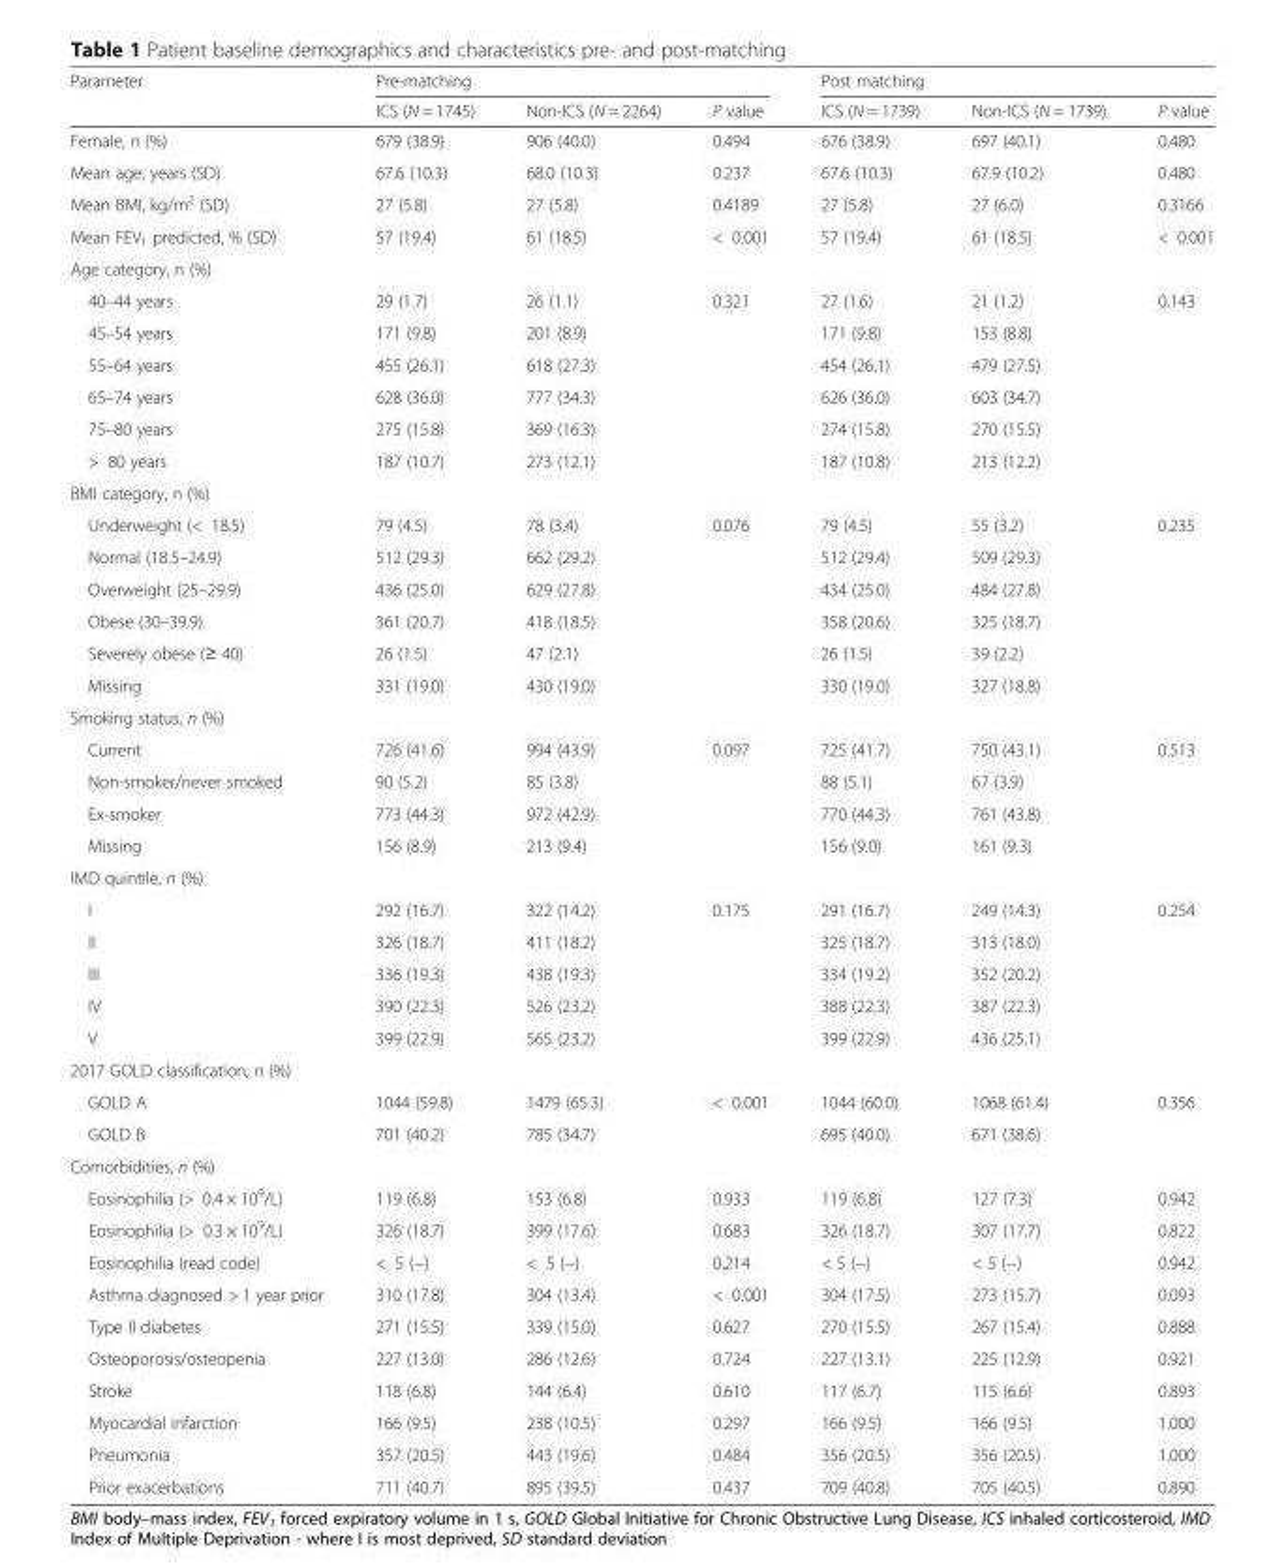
<table><thead><tr><td rowspan="2">Parameter</td><td colspan="3">Pre-matching</td><td colspan="3">Post matching</td></tr><tr><td>ICS (N = 1745)</td><td>Non-ICS (N = 2264)</td><td>P value</td><td>ICS (N = 1739)</td><td>Non-ICS (N = 1739)</td><td>P value</td></tr></thead><tbody><tr><td>Female, n (%)</td><td>679 (38.9)</td><td>906 (40.0)</td><td>0.494</td><td>676 (38.9)</td><td>697 (40.1)</td><td>0.480</td></tr><tr><td>Mean age, years (SD)</td><td>67.6 (10.3)</td><td>68.0 (10.3)</td><td>0.237</td><td>67.6 (10.3)</td><td>67.9 (10.2)</td><td>0.480</td></tr><tr><td>Mean BMI, kg/m<sup>2</sup> (SD)</td><td>27 (5.8)</td><td>27 (5.8)</td><td>0.4189</td><td>27 (5.8)</td><td>27 (6.0)</td><td>0.3166</td></tr><tr><td>Mean FEV<sub>1</sub> predicted, % (SD)</td><td>57 (19.4)</td><td>61 (18.5)</td><td>&lt; 0.001</td><td>57 (19.4)</td><td>61 (18.5)</td><td>&lt; 0.001</td></tr><tr><td colspan="7">Age category, n (%)</td></tr><tr><td>40–44 years</td><td>29 (1.7)</td><td>26 (1.1)</td><td rowspan="6">0.321</td><td>27 (1.6)</td><td>21 (1.2)</td><td rowspan="6">0.143</td></tr><tr><td>45–54 years</td><td>171 (9.8)</td><td>201 (8.9)</td><td>171 (9.8)</td><td>153 (8.8)</td></tr><tr><td>55–64 years</td><td>455 (26.1)</td><td>618 (27.3)</td><td>454 (26.1)</td><td>479 (27.5)</td></tr><tr><td>65–74 years</td><td>628 (36.0)</td><td>777 (34.3)</td><td>626 (36.0)</td><td>603 (34.7)</td></tr><tr><td>75–80 years</td><td>275 (15.8)</td><td>369 (16.3)</td><td>274 (15.8)</td><td>270 (15.5)</td></tr><tr><td>&gt; 80 years</td><td>187 (10.7)</td><td>273 (12.1)</td><td>187 (10.8)</td><td>213 (12.2)</td></tr><tr><td colspan="7">BMI category, n (%)</td></tr><tr><td>Underweight (&lt; 18.5)</td><td>79 (4.5)</td><td>78 (3.4)</td><td rowspan="6">0.076</td><td>79 (4.5)</td><td>55 (3.2)</td><td rowspan="6">0.235</td></tr><tr><td>Normal (18.5–24.9)</td><td>512 (29.3)</td><td>662 (29.2)</td><td>512 (29.4)</td><td>509 (29.3)</td></tr><tr><td>Overweight (25–29.9)</td><td>436 (25.0)</td><td>629 (27.8)</td><td>434 (25.0)</td><td>484 (27.8)</td></tr><tr><td>Obese (30–39.9)</td><td>361 (20.7)</td><td>418 (18.5)</td><td>358 (20.6)</td><td>325 (18.7)</td></tr><tr><td>Severely obese (≥ 40)</td><td>26 (1.5)</td><td>47 (2.1)</td><td>26 (1.5)</td><td>39 (2.2)</td></tr><tr><td>Missing</td><td>331 (19.0)</td><td>430 (19.0)</td><td>330 (19.0)</td><td>327 (18.8)</td></tr><tr><td colspan="7">Smoking status, n (%)</td></tr><tr><td>Current</td><td>726 (41.6)</td><td>994 (43.9)</td><td rowspan="4">0.097</td><td>725 (41.7)</td><td>750 (43.1)</td><td rowspan="4">0.513</td></tr><tr><td>Non-smoker/never smoked</td><td>90 (5.2)</td><td>85 (3.8)</td><td>88 (5.1)</td><td>67 (3.9)</td></tr><tr><td>Ex-smoker</td><td>773 (44.3)</td><td>972 (42.9)</td><td>770 (44.3)</td><td>761 (43.8)</td></tr><tr><td>Missing</td><td>156 (8.9)</td><td>213 (9.4)</td><td>156 (9.0)</td><td>161 (9.3)</td></tr><tr><td colspan="7">IMD quintile, n (%)</td></tr><tr><td>I</td><td>292 (16.7)</td><td>322 (14.2)</td><td rowspan="5">0.175</td><td>291 (16.7)</td><td>249 (14.3)</td><td rowspan="5">0.254</td></tr><tr><td>II</td><td>326 (18.7)</td><td>411 (18.2)</td><td>325 (18.7)</td><td>313 (18.0)</td></tr><tr><td>III</td><td>336 (19.3)</td><td>438 (19.3)</td><td>334 (19.2)</td><td>352 (20.2)</td></tr><tr><td>IV</td><td>390 (22.3)</td><td>526 (23.2)</td><td>388 (22.3)</td><td>387 (22.3)</td></tr><tr><td>V</td><td>399 (22.9)</td><td>565 (23.2)</td><td>399 (22.9)</td><td>436 (25.1)</td></tr><tr><td colspan="7">2017 GOLD classification, n (%)</td></tr><tr><td>GOLD A</td><td>1044 (59.8)</td><td>1479 (65.3)</td><td rowspan="2">&lt; 0.001</td><td>1044 (60.0)</td><td>1068 (61.4)</td><td rowspan="2">0.356</td></tr><tr><td>GOLD B</td><td>701 (40.2)</td><td>785 (34.7)</td><td>695 (40.0)</td><td>671 (38.6)</td></tr><tr><td colspan="7">Comorbidities, n (%)</td></tr><tr><td>Eosinophilia (&gt; 0.4 × 10<sup>9</sup>/L)</td><td>119 (6.8)</td><td>153 (6.8)</td><td>0.933</td><td>119 (6.8)</td><td>127 (7.3)</td><td>0.942</td></tr><tr><td>Eosinophilia (&gt; 0.3 × 10<sup>9</sup>/L)</td><td>326 (18.7)</td><td>399 (17.6)</td><td>0.683</td><td>326 (18.7)</td><td>307 (17.7)</td><td>0.822</td></tr><tr><td>Eosinophilia (read code)</td><td>&lt; 5 (−)</td><td>&lt; 5 (−)</td><td>0.214</td><td>&lt; 5 (−)</td><td>&lt; 5 (−)</td><td>0.942</td></tr><tr><td>Asthma diagnosed &gt; 1 year prior</td><td>310 (17.8)</td><td>304 (13.4)</td><td>&lt; 0.001</td><td>304 (17.5)</td><td>273 (15.7)</td><td>0.093</td></tr><tr><td>Type II diabetes</td><td>271 (15.5)</td><td>339 (15.0)</td><td>0.627</td><td>270 (15.5)</td><td>267 (15.4)</td><td>0.888</td></tr><tr><td>Osteoporosis/osteopenia</td><td>227 (13.0)</td><td>286 (12.6)</td><td>0.724</td><td>227 (13.1)</td><td>225 (12.9)</td><td>0.921</td></tr><tr><td>Stroke</td><td>118 (6.8)</td><td>144 (6.4)</td><td>0.610</td><td>117 (6.7)</td><td>115 (6.6)</td><td>0.893</td></tr><tr><td>Myocardial infarction</td><td>166 (9.5)</td><td>238 (10.5)</td><td>0.297</td><td>166 (9.5)</td><td>166 (9.5)</td><td>1.000</td></tr><tr><td>Pneumonia</td><td>357 (20.5)</td><td>443 (19.6)</td><td>0.484</td><td>356 (20.5)</td><td>356 (20.5)</td><td>1.000</td></tr><tr><td>Prior exacerbations</td><td>711 (40.7)</td><td>895 (39.5)</td><td>0.437</td><td>709 (40.8)</td><td>705 (40.5)</td><td>0.890</td></tr></tbody></table>